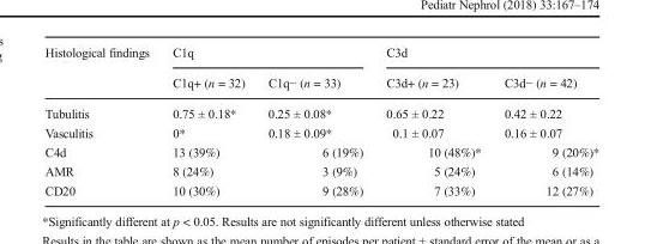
<table><thead><tr><td rowspan="2">Histological findings</td><td colspan="2">C1q</td><td colspan="2">C3d</td></tr><tr><td>C1q+ (n = 32)</td><td>C1q− (n = 33)</td><td>C3d+ (n = 23)</td><td>C3d− (n = 42)</td></tr></thead><tbody><tr><td>Tubulitis</td><td>0.75 ± 0.18*</td><td>0.25 ± 0.08*</td><td>0.65 ± 0.22</td><td>0.42 ± 0.22</td></tr><tr><td>Vasculitis</td><td>0*</td><td>0.18 ± 0.09*</td><td>0.1 ± 0.07</td><td>0.16 ± 0.07</td></tr><tr><td>C4d</td><td>13 (39%)</td><td>6 (19%)</td><td>10 (48%)*</td><td>9 (20%)*</td></tr><tr><td>AMR</td><td>8 (24%)</td><td>3 (9%)</td><td>5 (24%)</td><td>6 (14%)</td></tr><tr><td>CD20</td><td>10 (30%)</td><td>9 (28%)</td><td>7 (33%)</td><td>12 (27%)</td></tr></tbody></table>